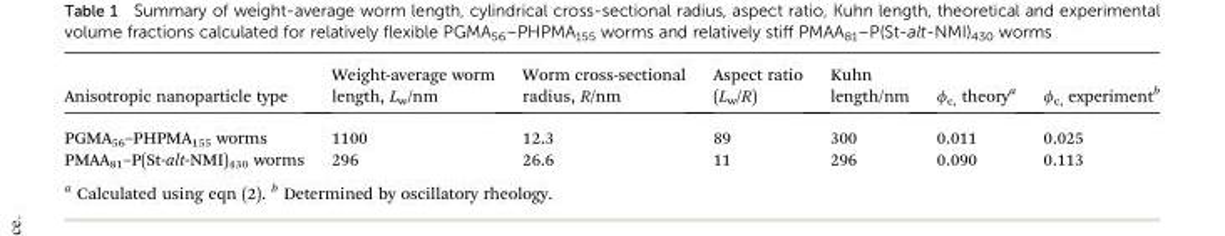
<table><thead><tr><td>Anisotropic nanoparticle type</td><td>Weight-average worm length, L<sub>w</sub>/nm</td><td>Worm cross-sectional radius, R/nm</td><td>Aspect ratio (L<sub>w</sub>/R)</td><td>Kuhn length/nm</td><td>φ<sub>c,</sub> theory<sup>a</sup></td><td>φ<sub>c,</sub> experiment<sup>b</sup></td></tr></thead><tbody><tr><td>PGMA<sub>56</sub>–PHPMA<sub>155</sub> worms</td><td>1100</td><td>12.3</td><td>89</td><td>300</td><td>0.011</td><td>0.025</td></tr><tr><td>PMAA<sub>81</sub>–P(St-alt-NMI)<sub>430</sub> worms</td><td>296</td><td>26.6</td><td>11</td><td>296</td><td>0.090</td><td>0.113</td></tr></tbody></table>